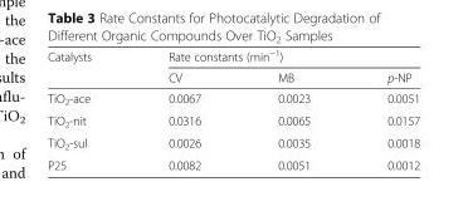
<table><thead><tr><td rowspan="2">Catalysts</td><td colspan="3">Rate constants (min<sup>−1</sup>)</td></tr><tr><td>CV</td><td>MB</td><td>p-NP</td></tr></thead><tbody><tr><td>TiO<sub>2</sub>-ace</td><td>0.0067</td><td>0.0023</td><td>0.0051</td></tr><tr><td>TiO<sub>2</sub>-nit</td><td>0.0316</td><td>0.0065</td><td>0.0157</td></tr><tr><td>TiO<sub>2</sub>-sul</td><td>0.0026</td><td>0.0035</td><td>0.0018</td></tr><tr><td>P25</td><td>0.0082</td><td>0.0051</td><td>0.0012</td></tr></tbody></table>